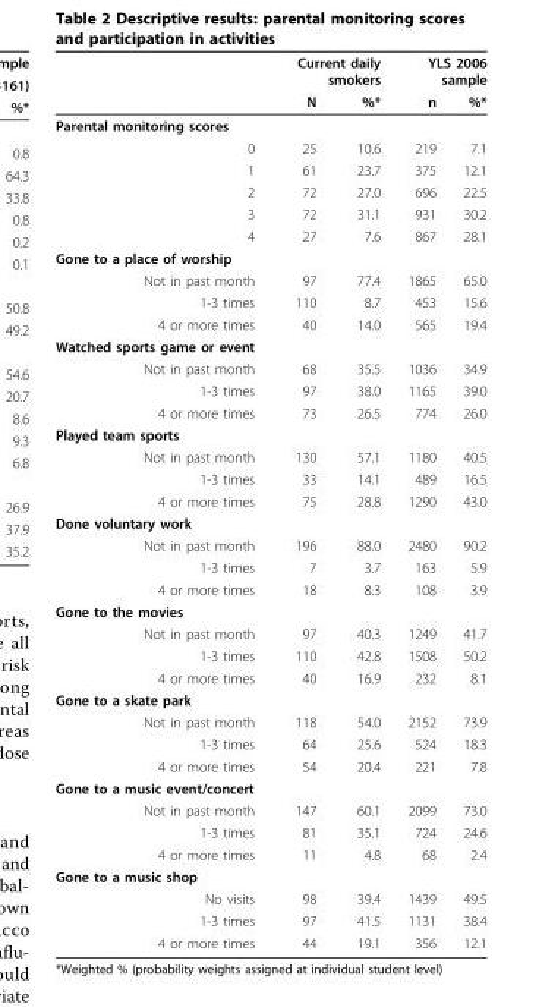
<table><thead><tr><td rowspan="2"></td><td colspan="2">Current daily smokers</td><td colspan="2">YLS 2006 sample</td></tr><tr><td>N</td><td>%*</td><td>n</td><td>%*</td></tr></thead><tbody><tr><td colspan="5">Parental monitoring scores</td></tr><tr><td>0</td><td>25</td><td>10.6</td><td>219</td><td>7.1</td></tr><tr><td>1</td><td>61</td><td>23.7</td><td>375</td><td>12.1</td></tr><tr><td>2</td><td>72</td><td>27.0</td><td>696</td><td>22.5</td></tr><tr><td>3</td><td>72</td><td>31.1</td><td>931</td><td>30.2</td></tr><tr><td>4</td><td>27</td><td>7.6</td><td>867</td><td>28.1</td></tr><tr><td colspan="5">Gone to a place of worship</td></tr><tr><td>Not in past month</td><td>97</td><td>77.4</td><td>1865</td><td>65.0</td></tr><tr><td>1-3 times</td><td>110</td><td>8.7</td><td>453</td><td>15.6</td></tr><tr><td>4 or more times</td><td>40</td><td>14.0</td><td>565</td><td>19.4</td></tr><tr><td colspan="5">Watched sports game or event</td></tr><tr><td>Not in past month</td><td>68</td><td>35.5</td><td>1036</td><td>34.9</td></tr><tr><td>1-3 times</td><td>97</td><td>38.0</td><td>1165</td><td>39.0</td></tr><tr><td>4 or more times</td><td>73</td><td>26.5</td><td>774</td><td>26.0</td></tr><tr><td colspan="5">Played team sports</td></tr><tr><td>Not in past month</td><td>130</td><td>57.1</td><td>1180</td><td>40.5</td></tr><tr><td>1-3 times</td><td>33</td><td>14.1</td><td>489</td><td>16.5</td></tr><tr><td>4 or more times</td><td>75</td><td>28.8</td><td>1290</td><td>43.0</td></tr><tr><td colspan="5">Done voluntary work</td></tr><tr><td>Not in past month</td><td>196</td><td>88.0</td><td>2480</td><td>90.2</td></tr><tr><td>1-3 times</td><td>7</td><td>3.7</td><td>163</td><td>5.9</td></tr><tr><td>4 or more times</td><td>18</td><td>8.3</td><td>108</td><td>3.9</td></tr><tr><td colspan="5">Gone to the movies</td></tr><tr><td>Not in past month</td><td>97</td><td>40.3</td><td>1249</td><td>41.7</td></tr><tr><td>1-3 times</td><td>110</td><td>42.8</td><td>1508</td><td>50.2</td></tr><tr><td>4 or more times</td><td>40</td><td>16.9</td><td>232</td><td>8.1</td></tr><tr><td colspan="5">Gone to a skate park</td></tr><tr><td>Not in past month</td><td>118</td><td>54.0</td><td>2152</td><td>73.9</td></tr><tr><td>1-3 times</td><td>64</td><td>25.6</td><td>524</td><td>18.3</td></tr><tr><td>4 or more times</td><td>54</td><td>20.4</td><td>221</td><td>7.8</td></tr><tr><td colspan="5">Gone to a music event/concert</td></tr><tr><td>Not in past month</td><td>147</td><td>60.1</td><td>2099</td><td>73.0</td></tr><tr><td>1-3 times</td><td>81</td><td>35.1</td><td>724</td><td>24.6</td></tr><tr><td>4 or more times</td><td>11</td><td>4.8</td><td>68</td><td>2.4</td></tr><tr><td colspan="5">Gone to a music shop</td></tr><tr><td>No visits</td><td>98</td><td>39.4</td><td>1439</td><td>49.5</td></tr><tr><td>1-3 times</td><td>97</td><td>41.5</td><td>1131</td><td>38.4</td></tr><tr><td>4 or more times</td><td>44</td><td>19.1</td><td>356</td><td>12.1</td></tr></tbody></table>